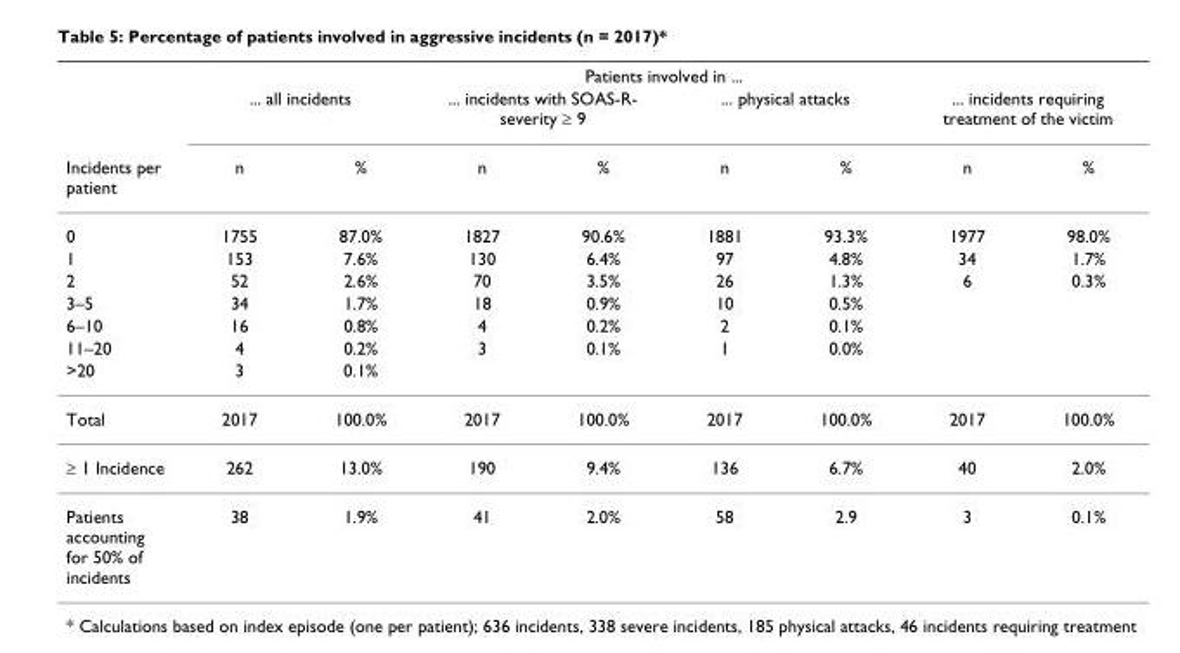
<table><thead><tr><td rowspan="3">Incidents per patient</td><td colspan="8">Patients involved in ...</td></tr><tr><td colspan="2">... all incidents</td><td colspan="2">... incidents with SOAS-R- severity ≥ 9</td><td colspan="2">... physical attacks</td><td colspan="2">... incidents requiring treatment of the victim</td></tr><tr><td>n</td><td>%</td><td>n</td><td>%</td><td>n</td><td>%</td><td>n</td><td>%</td></tr></thead><tbody><tr><td>0</td><td>1755</td><td>87.0%</td><td>1827</td><td>90.6%</td><td>1881</td><td>93.3%</td><td>1977</td><td>98.0%</td></tr><tr><td>1</td><td>153</td><td>7.6%</td><td>130</td><td>6.4%</td><td>97</td><td>4.8%</td><td>34</td><td>1.7%</td></tr><tr><td>2</td><td>52</td><td>2.6%</td><td>70</td><td>3.5%</td><td>26</td><td>1.3%</td><td>6</td><td>0.3%</td></tr><tr><td>3–5</td><td>34</td><td>1.7%</td><td>18</td><td>0.9%</td><td>10</td><td>0.5%</td><td></td><td></td></tr><tr><td>6–10</td><td>16</td><td>0.8%</td><td>4</td><td>0.2%</td><td>2</td><td>0.1%</td><td></td><td></td></tr><tr><td>11–20</td><td>4</td><td>0.2%</td><td>3</td><td>0.1%</td><td>1</td><td>0.0%</td><td></td><td></td></tr><tr><td>&gt;20</td><td>3</td><td>0.1%</td><td></td><td></td><td></td><td></td><td></td><td></td></tr><tr><td>Total</td><td>2017</td><td>100.0%</td><td>2017</td><td>100.0%</td><td>2017</td><td>100.0%</td><td>2017</td><td>100.0%</td></tr><tr><td>≥ 1 Incidence</td><td>262</td><td>13.0%</td><td>190</td><td>9.4%</td><td>136</td><td>6.7%</td><td>40</td><td>2.0%</td></tr><tr><td>Patients accounting for 50% of incidents</td><td>38</td><td>1.9%</td><td>41</td><td>2.0%</td><td>58</td><td>2.9</td><td>3</td><td>0.1%</td></tr></tbody></table>